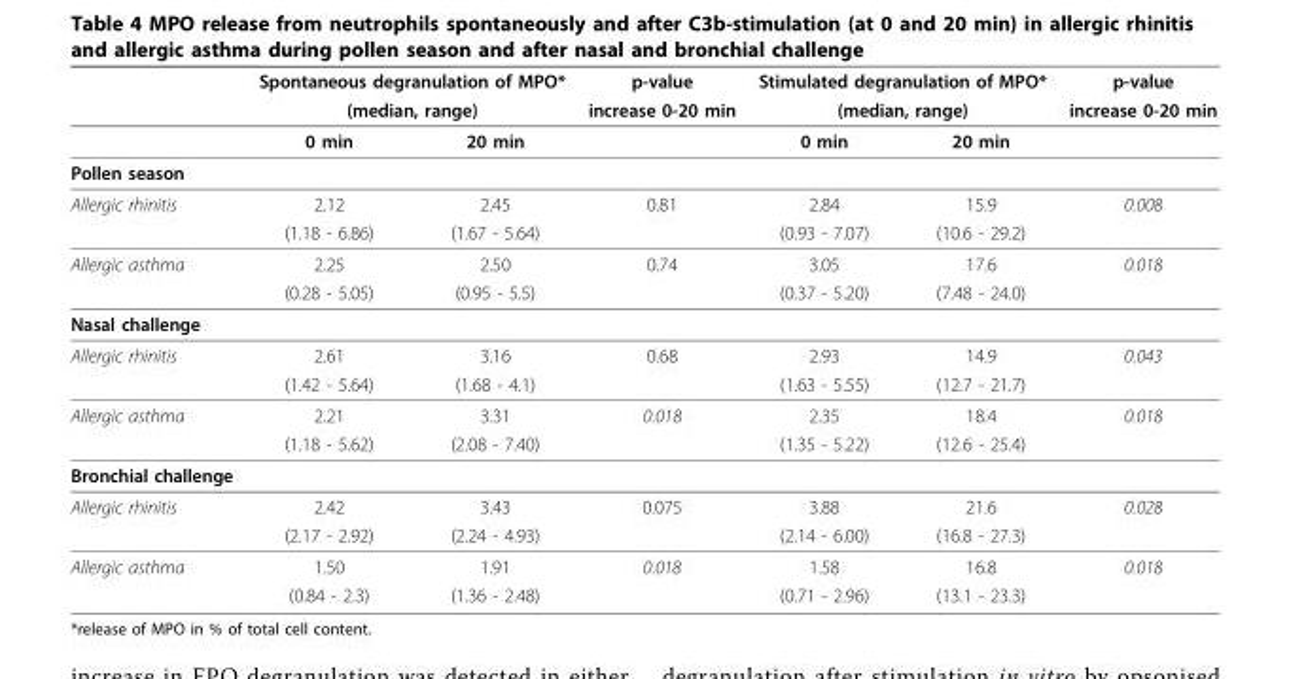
<table><thead><tr><td rowspan="3"></td><td rowspan="2" colspan="2">Spontaneous degranulation of MPO* (median, range)</td><td rowspan="3">p-value increase 0-20 min</td><td rowspan="2" colspan="2">Stimulated degranulation of MPO* (median, range)</td><td rowspan="3">p-value increase 0-20 min</td></tr><tr></tr><tr><td>0 min</td><td>20 min</td><td>0 min</td><td>20 min</td></tr></thead><tbody><tr><td colspan="7">Pollen season</td></tr><tr><td rowspan="2">Allergic rhinitis</td><td>2.12</td><td>2.45</td><td>0.81</td><td>2.84</td><td>15.9</td><td>0.008</td></tr><tr><td>(1.18 - 6.86)</td><td>(1.67 - 5.64)</td><td></td><td>(0.93 - 7.07)</td><td>(10.6 - 29.2)</td><td></td></tr><tr><td rowspan="2">Allergic asthma</td><td>2.25</td><td>2.50</td><td>0.74</td><td>3.05</td><td>17.6</td><td>0.018</td></tr><tr><td>(0.28 - 5.05)</td><td>(0.95 - 5.5)</td><td></td><td>(0.37 - 5.20)</td><td>(7.48 - 24.0)</td><td></td></tr><tr><td colspan="7">Nasal challenge</td></tr><tr><td rowspan="2">Allergic rhinitis</td><td>2.61</td><td>3.16</td><td>0.68</td><td>2.93</td><td>14.9</td><td>0.043</td></tr><tr><td>(1.42 - 5.64)</td><td>(1.68 - 4.1)</td><td></td><td>(1.63 - 5.55)</td><td>(12.7 - 21.7)</td><td></td></tr><tr><td rowspan="2">Allergic asthma</td><td>2.21</td><td>3.31</td><td>0.018</td><td>2.35</td><td>18.4</td><td>0.018</td></tr><tr><td>(1.18 - 5.62)</td><td>(2.08 - 7.40)</td><td></td><td>(1.35 - 5.22)</td><td>(12.6 - 25.4)</td><td></td></tr><tr><td colspan="7">Bronchial challenge</td></tr><tr><td rowspan="2">Allergic rhinitis</td><td>2.42</td><td>3.43</td><td>0.075</td><td>3.88</td><td>21.6</td><td>0.028</td></tr><tr><td>(2.17 - 2.92)</td><td>(2.24 - 4.93)</td><td></td><td>(2.14 - 6.00)</td><td>(16.8 - 27.3)</td><td></td></tr><tr><td rowspan="2">Allergic asthma</td><td>1.50</td><td>1.91</td><td>0.018</td><td>1.58</td><td>16.8</td><td>0.018</td></tr><tr><td>(0.84 - 2.3)</td><td>(1.36 - 2.48)</td><td></td><td>(0.71 - 2.96)</td><td>(13.1 - 23.3)</td><td></td></tr></tbody></table>